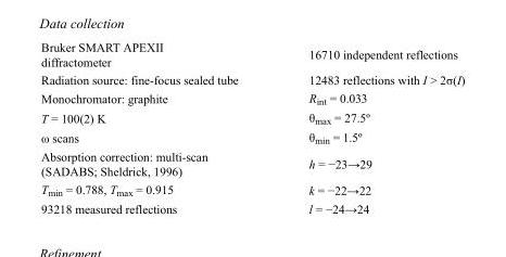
<table><tbody><tr><td>Bruker SMART APEXII diffractometer</td><td>16710 independent reflections</td></tr><tr><td>Radiation source: fine-focus sealed tube</td><td>12483 reflections with I &gt; 2σ(I)</td></tr><tr><td>Monochromator: graphite</td><td>R<sub>int</sub> = 0.033</td></tr><tr><td>T = 100(2) K</td><td>θ<sub>max</sub> = 27.5º</td></tr><tr><td>ω scans</td><td>θ<sub>min</sub> = 1.5º</td></tr><tr><td>Absorption correction: multi-scan (SADABS; Sheldrick, 1996)</td><td>h = −23→29</td></tr><tr><td>T<sub>min</sub> = 0.788, T<sub>max</sub> = 0.915</td><td>k = −22→22</td></tr><tr><td>93218 measured reflections</td><td>l = −24→24</td></tr></tbody></table>